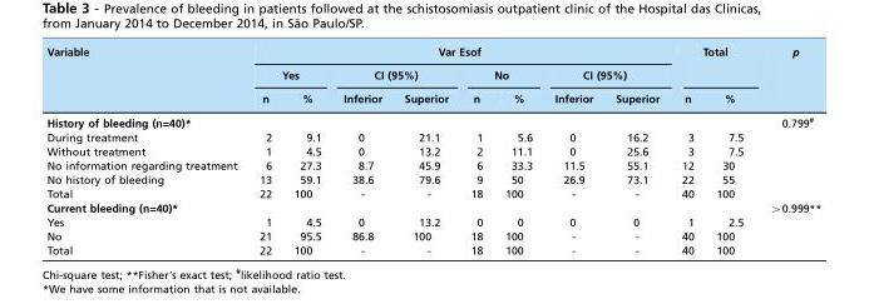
<table><thead><tr><td rowspan="3">Variable</td><td colspan="8">Var Esof</td><td rowspan="2" colspan="2">Total</td><td rowspan="3">p</td></tr><tr><td colspan="2">Yes</td><td colspan="2">CI (95%)</td><td colspan="2">No</td><td colspan="2">CI (95%)</td></tr><tr><td>n</td><td>%</td><td>Inferior</td><td>Superior</td><td>n</td><td>%</td><td>Inferior</td><td>Superior</td><td>n</td><td>%</td></tr></thead><tbody><tr><td colspan="11">History of bleeding (n=40)*</td><td rowspan="6">0.799#</td></tr><tr><td>During treatment</td><td>2</td><td>9.1</td><td>0</td><td>21.1</td><td>1</td><td>5.6</td><td>0</td><td>16.2</td><td>3</td><td>7.5</td></tr><tr><td>Without treatment</td><td>1</td><td>4.5</td><td>0</td><td>13.2</td><td>2</td><td>11.1</td><td>0</td><td>25.6</td><td>3</td><td>7.5</td></tr><tr><td>No information regarding treatment</td><td>6</td><td>27.3</td><td>8.7</td><td>45.9</td><td>6</td><td>33.3</td><td>11.5</td><td>55.1</td><td>12</td><td>30</td></tr><tr><td>No history of bleeding</td><td>13</td><td>59.1</td><td>38.6</td><td>79.6</td><td>9</td><td>50</td><td>26.9</td><td>73.1</td><td>22</td><td>55</td></tr><tr><td>Total</td><td>22</td><td>100</td><td>-</td><td>-</td><td>18</td><td>100</td><td>-</td><td>-</td><td>40</td><td>100</td></tr><tr><td colspan="11">Current bleeding (n=40)*</td><td rowspan="4">&gt;0.999**</td></tr><tr><td>Yes</td><td>1</td><td>4.5</td><td>0</td><td>13.2</td><td>0</td><td>0</td><td>0</td><td>0</td><td>1</td><td>2.5</td></tr><tr><td>No</td><td>21</td><td>95.5</td><td>86.8</td><td>100</td><td>18</td><td>100</td><td>-</td><td>-</td><td>40</td><td>100</td></tr><tr><td>Total</td><td>22</td><td>100</td><td>-</td><td>-</td><td>18</td><td>100</td><td>-</td><td>-</td><td>40</td><td>100</td></tr></tbody></table>